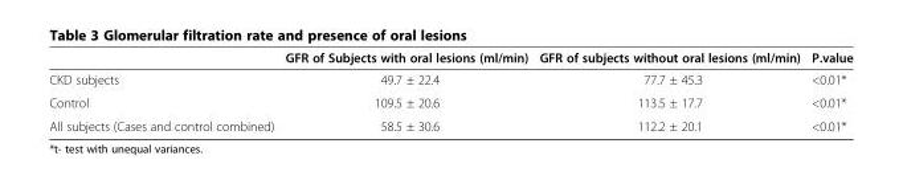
<table><thead><tr><td></td><td>GFR of Subjects with oral lesions (ml/min)</td><td>GFR of subjects without oral lesions (ml/min)</td><td>P.value</td></tr></thead><tbody><tr><td>CKD subjects</td><td>49.7 ± 22.4</td><td>77.7 ± 45.3</td><td>&lt;0.01*</td></tr><tr><td>Control</td><td>109.5 ± 20.6</td><td>113.5 ± 17.7</td><td>&lt;0.01*</td></tr><tr><td>All subjects (Cases and control combined)</td><td>58.5 ± 30.6</td><td>112.2 ± 20.1</td><td>&lt;0.01*</td></tr></tbody></table>